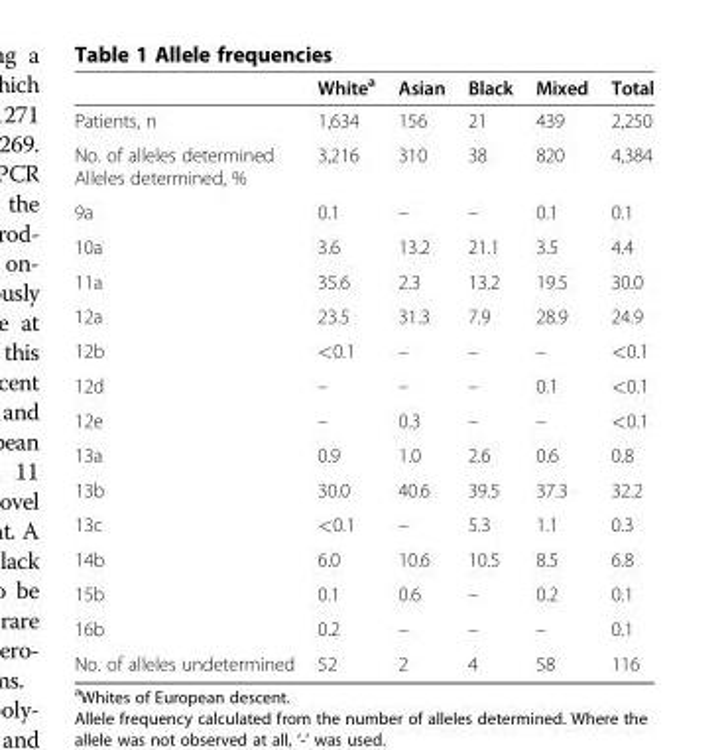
<table><thead><tr><td></td><td>White<sup>a</sup></td><td>Asian</td><td>Black</td><td>Mixed</td><td>Total</td></tr></thead><tbody><tr><td>Patients, n</td><td>1,634</td><td>156</td><td>21</td><td>439</td><td>2,250</td></tr><tr><td>No. of alleles determined Alleles determined, %</td><td>3,216</td><td>310</td><td>38</td><td>820</td><td>4,384</td></tr><tr><td>9a</td><td>0.1</td><td>–</td><td>–</td><td>0.1</td><td>0.1</td></tr><tr><td>10a</td><td>3.6</td><td>13.2</td><td>21.1</td><td>3.5</td><td>4.4</td></tr><tr><td>11a</td><td>35.6</td><td>2.3</td><td>13.2</td><td>19.5</td><td>30.0</td></tr><tr><td>12a</td><td>23.5</td><td>31.3</td><td>7.9</td><td>28.9</td><td>24.9</td></tr><tr><td>12b</td><td>&lt;0.1</td><td>–</td><td>–</td><td>–</td><td>&lt;0.1</td></tr><tr><td>12d</td><td>–</td><td>–</td><td>–</td><td>0.1</td><td>&lt;0.1</td></tr><tr><td>12e</td><td>–</td><td>0.3</td><td>–</td><td>–</td><td>&lt;0.1</td></tr><tr><td>13a</td><td>0.9</td><td>1.0</td><td>2.6</td><td>0.6</td><td>0.8</td></tr><tr><td>13b</td><td>30.0</td><td>40.6</td><td>39.5</td><td>37.3</td><td>32.2</td></tr><tr><td>13c</td><td>&lt;0.1</td><td>–</td><td>5.3</td><td>1.1</td><td>0.3</td></tr><tr><td>14b</td><td>6.0</td><td>10.6</td><td>10.5</td><td>8.5</td><td>6.8</td></tr><tr><td>15b</td><td>0.1</td><td>0.6</td><td>–</td><td>0.2</td><td>0.1</td></tr><tr><td>16b</td><td>0.2</td><td>–</td><td>–</td><td>–</td><td>0.1</td></tr><tr><td>No. of alleles undetermined</td><td>52</td><td>2</td><td>4</td><td>58</td><td>116</td></tr></tbody></table>